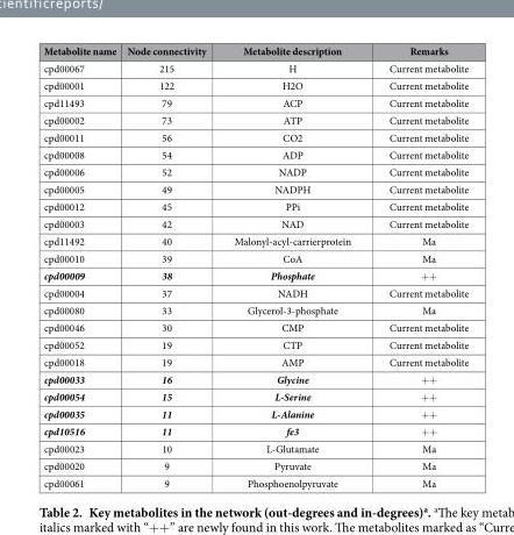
<table><thead><tr><td>Metabolite name</td><td>Node connectivity</td><td>Metabolite description</td><td>Remarks</td></tr></thead><tbody><tr><td>cpd00067</td><td>215</td><td>H</td><td>Current metabolite</td></tr><tr><td>cpd00001</td><td>122</td><td>H2O</td><td>Current metabolite</td></tr><tr><td>cpd11493</td><td>79</td><td>ACP</td><td>Current metabolite</td></tr><tr><td>cpd00002</td><td>73</td><td>ATP</td><td>Current metabolite</td></tr><tr><td>cpd00011</td><td>56</td><td>CO2</td><td>Current metabolite</td></tr><tr><td>cpd00008</td><td>54</td><td>ADP</td><td>Current metabolite</td></tr><tr><td>cpd00006</td><td>52</td><td>NADP</td><td>Current metabolite</td></tr><tr><td>cpd00005</td><td>49</td><td>NADPH</td><td>Current metabolite</td></tr><tr><td>cpd00012</td><td>45</td><td>PPi</td><td>Current metabolite</td></tr><tr><td>cpd00003</td><td>42</td><td>NAD</td><td>Current metabolite</td></tr><tr><td>cpd11492</td><td>40</td><td>Malonyl-acyl-carrierprotein</td><td>Ma</td></tr><tr><td>cpd00010</td><td>39</td><td>CoA</td><td>Ma</td></tr><tr><td>cpd00009</td><td>38</td><td>Phosphate</td><td>+ +</td></tr><tr><td>cpd00004</td><td>37</td><td>NADH</td><td>Current metabolite</td></tr><tr><td>cpd00080</td><td>33</td><td>Glycerol-3-phosphate</td><td>Ma</td></tr><tr><td>cpd00046</td><td>30</td><td>CMP</td><td>Current metabolite</td></tr><tr><td>cpd00052</td><td>19</td><td>CTP</td><td>Current metabolite</td></tr><tr><td>cpd00018</td><td>19</td><td>AMP</td><td>Current metabolite</td></tr><tr><td>cpd00033</td><td>16</td><td>Glycine</td><td>+ +</td></tr><tr><td>cpd00054</td><td>15</td><td>L-Serine</td><td>+ +</td></tr><tr><td>cpd00035</td><td>11</td><td>L-Alanine</td><td>+ +</td></tr><tr><td>cpd10516</td><td>11</td><td>fe3</td><td>+ +</td></tr><tr><td>cpd00023</td><td>10</td><td>L-Glutamate</td><td>Ma</td></tr><tr><td>cpd00020</td><td>9</td><td>Pyruvate</td><td>Ma</td></tr><tr><td>cpd00061</td><td>9</td><td>Phosphoenolpyruvate</td><td>Ma</td></tr></tbody></table>